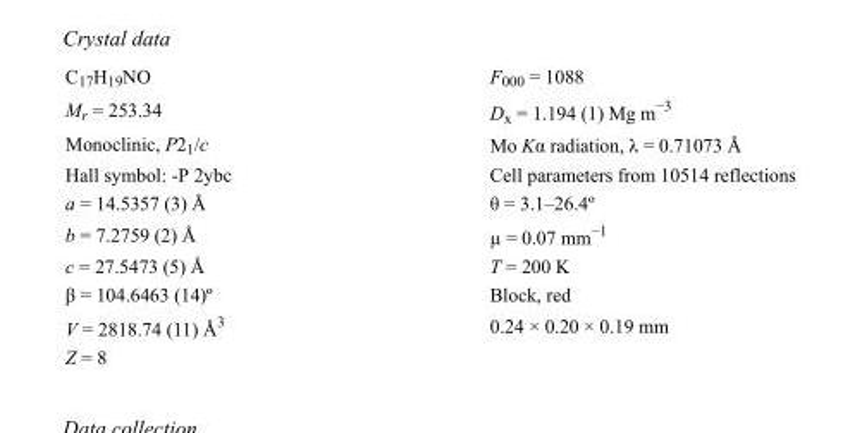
<table><tbody><tr><td>C<sub>17</sub>H<sub>19</sub>NO</td><td>F000 = 1088</td></tr><tr><td>M<sub>r</sub> = 253.34</td><td>D<sub>x</sub> = 1.194 (1) Mg m<sup>−3</sup></td></tr><tr><td>Monoclinic, P2<sub>1</sub>/c</td><td>Mo Kα radiation, λ = 0.71073 Å</td></tr><tr><td>Hall symbol: -P 2ybc</td><td>Cell parameters from 10514 reflections</td></tr><tr><td>a = 14.5357 (3) Å</td><td>θ = 3.1–26.4º</td></tr><tr><td>b = 7.2759 (2) Å</td><td>µ = 0.07 mm<sup>−1</sup></td></tr><tr><td>c = 27.5473 (5) Å</td><td>T = 200 K</td></tr><tr><td>β = 104.6463 (14)º</td><td>Block, red</td></tr><tr><td>V = 2818.74 (11) Å<sup>3</sup></td><td>0.24 × 0.20 × 0.19 mm</td></tr><tr><td>Z = 8</td><td></td></tr></tbody></table>